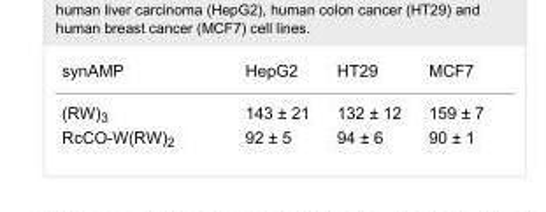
<table><tbody><tr><td>synAMP</td><td>HepG2</td><td>HT29</td><td>MCF7</td></tr><tr><td>(RW)<sub>3</sub></td><td>143 ± 21</td><td>132 ± 12</td><td>159 ± 7</td></tr><tr><td>RcCO-W(RW)<sub>2</sub></td><td>92 ± 5</td><td>94 ± 6</td><td>90 ± 1</td></tr></tbody></table>